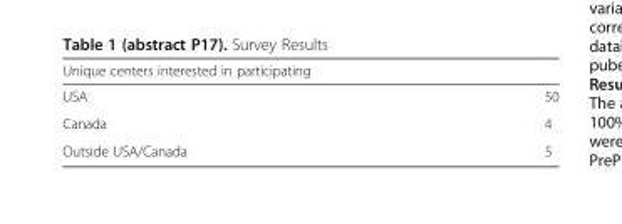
<table><thead><tr><td>Unique centers interested in participating</td><td></td></tr></thead><tbody><tr><td>USA</td><td>50</td></tr><tr><td>Canada</td><td>4</td></tr><tr><td>Outside USA/Canada</td><td>5</td></tr></tbody></table>